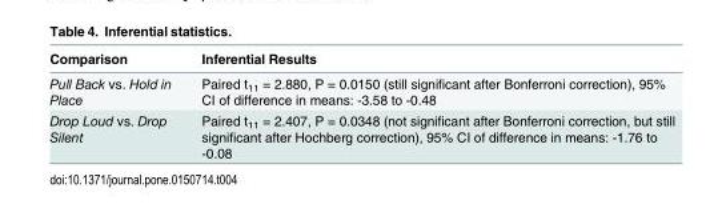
<table><thead><tr><td>Comparison</td><td>Inferential Results</td></tr></thead><tbody><tr><td>Pull Back vs. Hold in Place</td><td>Paired t<sub>11</sub> = 2.880, P = 0.0150 (still significant after Bonferroni correction), 95% CI of difference in means: -3.58 to -0.48</td></tr><tr><td>Drop Loud vs. Drop Silent</td><td>Paired t<sub>11</sub> = 2.407, P = 0.0348 (not significant after Bonferroni correction, but still significant after Hochberg correction), 95% CI of difference in means: -1.76 to -0.08</td></tr></tbody></table>